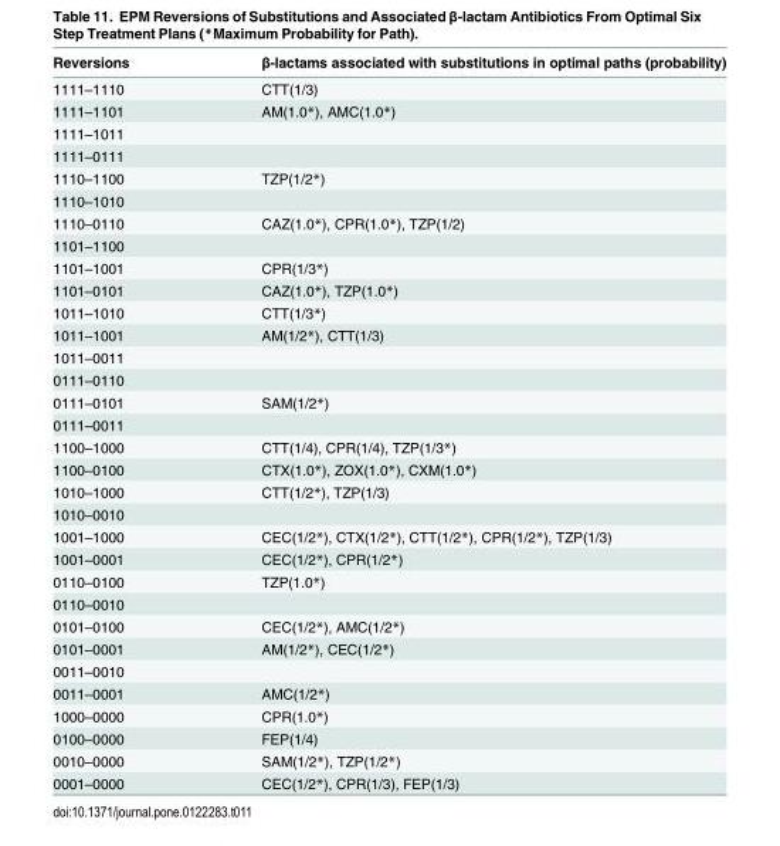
<table><thead><tr><td>Reversions</td><td>β-lactams associated with substitutions in optimal paths (probability)</td></tr></thead><tbody><tr><td>1111–1110</td><td>CTT(1/3)</td></tr><tr><td>1111–1101</td><td>AM(1.0*), AMC(1.0*)</td></tr><tr><td colspan="2">1111–1011</td></tr><tr><td colspan="2">1111–0111</td></tr><tr><td>1110–1100</td><td>TZP(1/2*)</td></tr><tr><td colspan="2">1110–1010</td></tr><tr><td>1110–0110</td><td>CAZ(1.0*), CPR(1.0*), TZP(1/2)</td></tr><tr><td colspan="2">1101–1100</td></tr><tr><td>1101–1001</td><td>CPR(1/3*)</td></tr><tr><td>1101–0101</td><td>CAZ(1.0*), TZP(1.0*)</td></tr><tr><td>1011–1010</td><td>CTT(1/3*)</td></tr><tr><td>1011–1001</td><td>AM(1/2*), CTT(1/3)</td></tr><tr><td colspan="2">1011–0011</td></tr><tr><td colspan="2">0111–0110</td></tr><tr><td>0111–0101</td><td>SAM(1/2*)</td></tr><tr><td colspan="2">0111–0011</td></tr><tr><td>1100–1000</td><td>CTT(1/4), CPR(1/4), TZP(1/3*)</td></tr><tr><td>1100–0100</td><td>CTX(1.0*), ZOX(1.0*), CXM(1.0*)</td></tr><tr><td>1010–1000</td><td>CTT(1/2*), TZP(1/3)</td></tr><tr><td colspan="2">1010–0010</td></tr><tr><td>1001–1000</td><td>CEC(1/2*), CTX(1/2*), CTT(1/2*), CPR(1/2*), TZP(1/3)</td></tr><tr><td>1001–0001</td><td>CEC(1/2*), CPR(1/2*)</td></tr><tr><td>0110–0100</td><td>TZP(1.0*)</td></tr><tr><td colspan="2">0110–0010</td></tr><tr><td>0101–0100</td><td>CEC(1/2*), AMC(1/2*)</td></tr><tr><td>0101–0001</td><td>AM(1/2*), CEC(1/2*)</td></tr><tr><td colspan="2">0011–0010</td></tr><tr><td>0011–0001</td><td>AMC(1/2*)</td></tr><tr><td>1000–0000</td><td>CPR(1.0*)</td></tr><tr><td>0100–0000</td><td>FEP(1/4)</td></tr><tr><td>0010–0000</td><td>SAM(1/2*), TZP(1/2*)</td></tr><tr><td>0001–0000</td><td>CEC(1/2*), CPR(1/3), FEP(1/3)</td></tr></tbody></table>